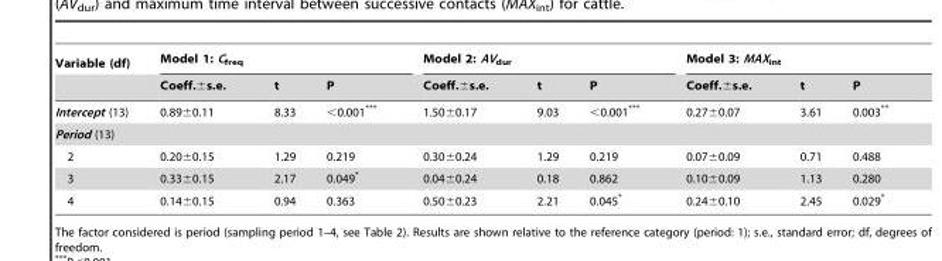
<table><thead><tr><td rowspan="2">Variable (df)</td><td colspan="3">Model 1: C<sub>freq</sub></td><td colspan="3">Model 2: AV<sub>dur</sub></td><td colspan="3">Model 3: MAX<sub>int</sub></td></tr><tr><td>Coeff.±s.e.</td><td>t</td><td>P</td><td>Coeff.±s.e.</td><td>t</td><td>P</td><td>Coeff.±s.e.</td><td>t</td><td>P</td></tr></thead><tbody><tr><td>Intercept (13)</td><td>0.89±0.11</td><td>8.33</td><td>&lt;0.001***</td><td>1.50±0.17</td><td>9.03</td><td>&lt;0.001***</td><td>0.27±0.07</td><td>3.61</td><td>0.003**</td></tr><tr><td colspan="10">Period (13)</td></tr><tr><td>2</td><td>0.20±0.15</td><td>1.29</td><td>0.219</td><td>0.30±0.24</td><td>1.29</td><td>0.219</td><td>0.07±0.09</td><td>0.71</td><td>0.488</td></tr><tr><td>3</td><td>0.33±0.15</td><td>2.17</td><td>0.049*</td><td>0.04±0.24</td><td>0.18</td><td>0.862</td><td>0.10±0.09</td><td>1.13</td><td>0.280</td></tr><tr><td>4</td><td>0.14±0.15</td><td>0.94</td><td>0.363</td><td>0.50±0.23</td><td>2.21</td><td>0.045*</td><td>0.24±0.10</td><td>2.45</td><td>0.029*</td></tr></tbody></table>